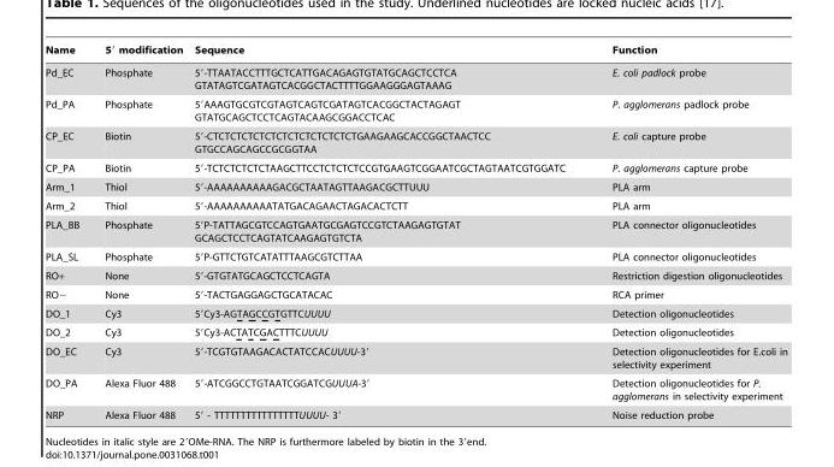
<table><thead><tr><td>Name</td><td>5′ modification</td><td>Sequence</td><td>Function</td></tr></thead><tbody><tr><td>Pd_EC</td><td>Phosphate</td><td>5′-TTAATACCTTTGCTCATTGACAGAGTGTATGCAGCTCCTCA GTATAGTCGATAGTCACGGCTACTTTTGGAAGGGAGTAAAG</td><td>E. coli padlock probe</td></tr><tr><td>Pd_PA</td><td>Phosphate</td><td>5′AAAGTGCGTCGTAGTCAGTCGATAGTCACGGCTACTAGAGT GTATGCAGCTCCTCAGTACAAGCGGACCTCAC</td><td>P. agglomerans padlock probe</td></tr><tr><td>CP_EC</td><td>Biotin</td><td>5′-CTCTCTCTCTCTCTCTCTCTCTCTCTGAAGAAGCACCGGCTAACTCC GTGCCAGCAGCCGCGGTAA</td><td>E. coli capture probe</td></tr><tr><td>CP_PA</td><td>Biotin</td><td>5′-TCTCTCTCTCTAAGCTTCCTCTCTCTCCGTGAAGTCGGAATCGCTAGTAATCGTGGATC</td><td>P. agglomerans capture probe</td></tr><tr><td>Arm_1</td><td>Thiol</td><td>5′-AAAAAAAAAAGACGCTAATAGTTAAGACGCTTUUU</td><td>PLA arm</td></tr><tr><td>Arm_2</td><td>Thiol</td><td>5′-AAAAAAAAAATATGACAGAACTAGACACTCTT</td><td>PLA arm</td></tr><tr><td>PLA_BB</td><td>Phosphate</td><td>5′P-TATTAGCGTCCAGTGAATGCGAGTCCGTCTAAGAGTGTAT GCAGCTCCTCAGTATCAAGAGTGTCTA</td><td>PLA connector oligonucleotides</td></tr><tr><td>PLA_SL</td><td>Phosphate</td><td>5′P-GTTCTGTCATATTTAAGCGTCTTAA</td><td>PLA connector oligonucleotides</td></tr><tr><td>RO+</td><td>None</td><td>5′-GTGTATGCAGCTCCTCAGTA</td><td>Restriction digestion oligonucleotides</td></tr><tr><td>RO−</td><td>None</td><td>5′-TACTGAGGAGCTGCATACAC</td><td>RCA primer</td></tr><tr><td>DO_1</td><td>Cy3</td><td>5′Cy3-AGTAGCCGTGTTCUUUU</td><td>Detection oligonucleotides</td></tr><tr><td>DO_2</td><td>Cy3</td><td>5′Cy3-ACTATCGACTTTCUUUU</td><td>Detection oligonucleotides</td></tr><tr><td>DO_EC</td><td>Cy3</td><td>5′-TCGTGTAAGACACTATCCACUUUU-3′</td><td>Detection oligonucleotides for E.coli in selectivity experiment</td></tr><tr><td>DO_PA</td><td>Alexa Fluor 488</td><td>5′-ATCGGCCTGTAATCGGATCGUUUA-3′</td><td>Detection oligonucleotides for P. agglomerans in selectivity experiment</td></tr><tr><td>NRP</td><td>Alexa Fluor 488</td><td>5′ - TTTTTTTTTTTTTTTTUUUU- 3′</td><td>Noise reduction probe</td></tr></tbody></table>